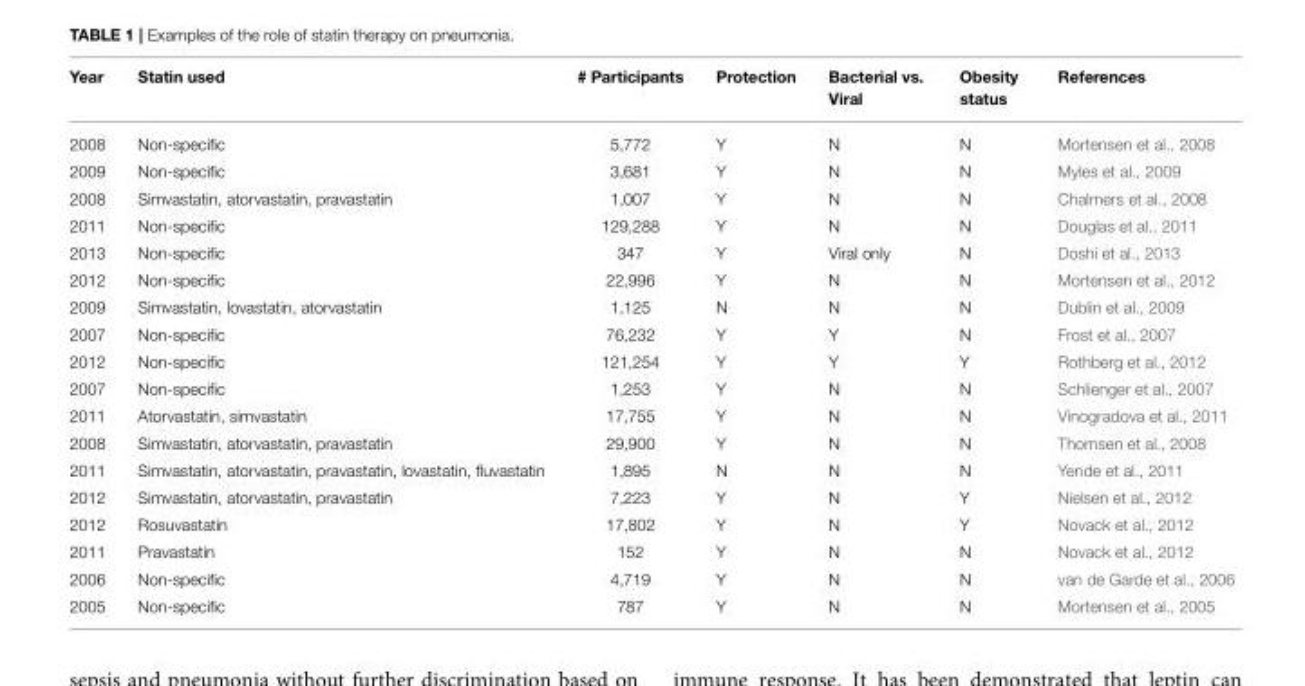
<table><thead><tr><td>Year</td><td>Statin used</td><td># Participants</td><td>Protection</td><td>Bacterial vs. Viral</td><td>Obesity status</td><td>References</td></tr></thead><tbody><tr><td>2008</td><td>Non-specific</td><td>5,772</td><td>Y</td><td>N</td><td>N</td><td>Mortensen et al., 2008</td></tr><tr><td>2009</td><td>Non-specific</td><td>3,681</td><td>Y</td><td>N</td><td>N</td><td>Myles et al., 2009</td></tr><tr><td>2008</td><td>Simvastatin, atorvastatin, pravastatin</td><td>1,007</td><td>Y</td><td>N</td><td>N</td><td>Chalmers et al., 2008</td></tr><tr><td>2011</td><td>Non-specific</td><td>129,288</td><td>Y</td><td>N</td><td>N</td><td>Douglas et al., 2011</td></tr><tr><td>2013</td><td>Non-specific</td><td>347</td><td>Y</td><td>Viral only</td><td>N</td><td>Doshi et al., 2013</td></tr><tr><td>2012</td><td>Non-specific</td><td>22,996</td><td>Y</td><td>N</td><td>N</td><td>Mortensen et al., 2012</td></tr><tr><td>2009</td><td>Simvastatin, lovastatin, atorvastatin</td><td>1,125</td><td>N</td><td>N</td><td>N</td><td>Dublin et al., 2009</td></tr><tr><td>2007</td><td>Non-specific</td><td>76,232</td><td>Y</td><td>Y</td><td>N</td><td>Frost et al., 2007</td></tr><tr><td>2012</td><td>Non-specific</td><td>121,254</td><td>Y</td><td>Y</td><td>Y</td><td>Rothberg et al., 2012</td></tr><tr><td>2007</td><td>Non-specific</td><td>1,253</td><td>Y</td><td>N</td><td>N</td><td>Schlienger et al., 2007</td></tr><tr><td>2011</td><td>Atorvastatin, simvastatin</td><td>17,755</td><td>Y</td><td>N</td><td>N</td><td>Vinogradova et al., 2011</td></tr><tr><td>2008</td><td>Simvastatin, atorvastatin, pravastatin</td><td>29,900</td><td>Y</td><td>N</td><td>N</td><td>Thomsen et al., 2008</td></tr><tr><td>2011</td><td>Simvastatin, atorvastatin, pravastatin, lovastatin, fluvastatin</td><td>1,895</td><td>N</td><td>N</td><td>N</td><td>Yende et al., 2011</td></tr><tr><td>2012</td><td>Simvastatin, atorvastatin, pravastatin</td><td>7,223</td><td>Y</td><td>N</td><td>Y</td><td>Nielsen et al., 2012</td></tr><tr><td>2012</td><td>Rosuvastatin</td><td>17,802</td><td>Y</td><td>N</td><td>Y</td><td>Novack et al., 2012</td></tr><tr><td>2011</td><td>Pravastatin</td><td>152</td><td>Y</td><td>N</td><td>N</td><td>Novack et al., 2012</td></tr><tr><td>2006</td><td>Non-specific</td><td>4,719</td><td>Y</td><td>N</td><td>N</td><td>van de Garde et al., 2006</td></tr><tr><td>2005</td><td>Non-specific</td><td>787</td><td>Y</td><td>N</td><td>N</td><td>Mortensen et al., 2005</td></tr></tbody></table>